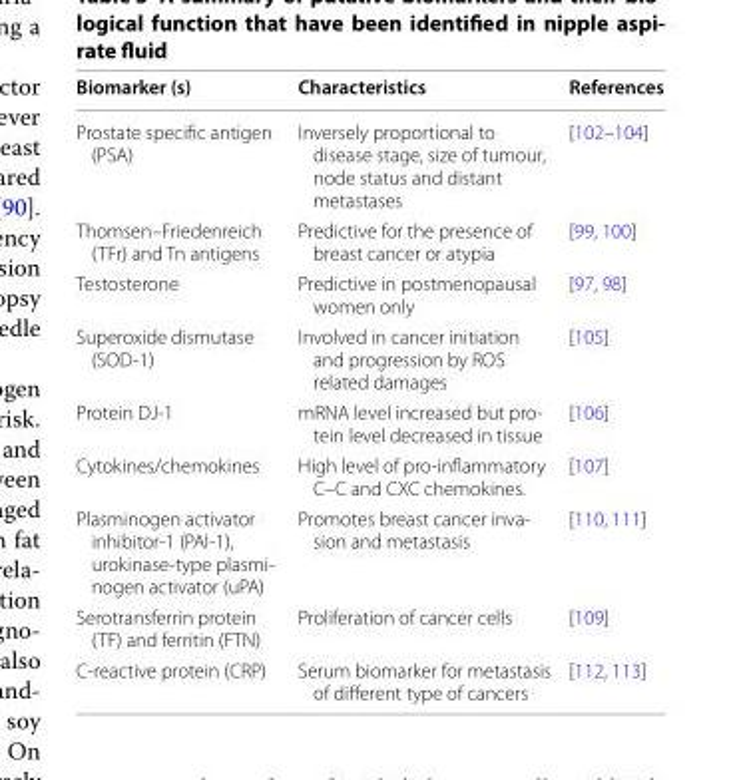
<table><thead><tr><td>Biomarker (s)</td><td>Characteristics</td><td>References</td></tr></thead><tbody><tr><td>Prostate specific antigen (PSA)</td><td>Inversely proportional to disease stage, size of tumour, node status and distant metastases</td><td>[102–104]</td></tr><tr><td>Thomsen–Friedenreich (TFr) and Tn antigens</td><td>Predictive for the presence of breast cancer or atypia</td><td>[99, 100]</td></tr><tr><td>Testosterone</td><td>Predictive in postmenopausal women only</td><td>[97, 98]</td></tr><tr><td>Superoxide dismutase (SOD‑1)</td><td>Involved in cancer initiation and progression by ROS related damages</td><td>[105]</td></tr><tr><td>Protein DJ‑1</td><td>mRNA level increased but pro‑ tein level decreased in tissue</td><td>[106]</td></tr><tr><td>Cytokines/chemokines</td><td>High level of pro‑inflammatory C–C and CXC chemokines.</td><td>[107]</td></tr><tr><td>Plasminogen activator inhibitor‑1 (PAI‑1), urokinase‑type plasmi‑ nogen activator (uPA)</td><td>Promotes breast cancer inva‑ sion and metastasis</td><td>[110, 111]</td></tr><tr><td>Serotransferrin protein (TF) and ferritin (FTN)</td><td>Proliferation of cancer cells</td><td>[109]</td></tr><tr><td>C‑reactive protein (CRP)</td><td>Serum biomarker for metastasis of different type of cancers</td><td>[112, 113]</td></tr></tbody></table>